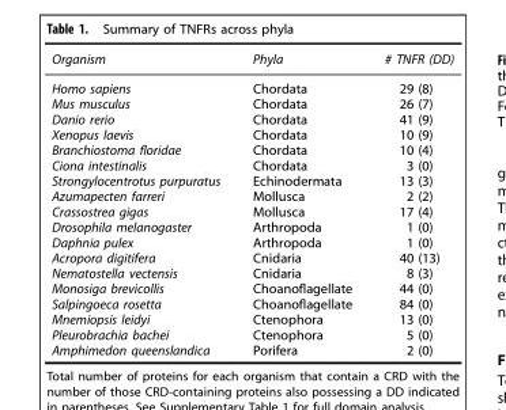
<table><thead><tr><td>Organism</td><td>Phyla</td><td># TNFR (DD)</td></tr></thead><tbody><tr><td>Homo sapiens</td><td>Chordata</td><td>29 (8)</td></tr><tr><td>Mus musculus</td><td>Chordata</td><td>26 (7)</td></tr><tr><td>Danio rerio</td><td>Chordata</td><td>41 (9)</td></tr><tr><td>Xenopus laevis</td><td>Chordata</td><td>10 (9)</td></tr><tr><td>Branchiostoma floridae</td><td>Chordata</td><td>10 (4)</td></tr><tr><td>Ciona intestinalis</td><td>Chordata</td><td>3 (0)</td></tr><tr><td>Strongylocentrotus purpuratus</td><td>Echinodermata</td><td>13 (3)</td></tr><tr><td>Azumapecten farreri</td><td>Mollusca</td><td>2 (2)</td></tr><tr><td>Crassostrea gigas</td><td>Mollusca</td><td>17 (4)</td></tr><tr><td>Drosophila melanogaster</td><td>Arthropoda</td><td>1 (0)</td></tr><tr><td>Daphnia pulex</td><td>Arthropoda</td><td>1 (0)</td></tr><tr><td>Acropora digitifera</td><td>Cnidaria</td><td>40 (13)</td></tr><tr><td>Nematostella vectensis</td><td>Cnidaria</td><td>8 (3)</td></tr><tr><td>Monosiga brevicollis</td><td>Choanoflagellate</td><td>44 (0)</td></tr><tr><td>Salpingoeca rosetta</td><td>Choanoflagellate</td><td>84 (0)</td></tr><tr><td>Mnemiopsis leidyi</td><td>Ctenophora</td><td>13 (0)</td></tr><tr><td>Pleurobrachia bachei</td><td>Ctenophora</td><td>5 (0)</td></tr><tr><td>Amphimedon queenslandica</td><td>Porifera</td><td>2 (0)</td></tr></tbody></table>